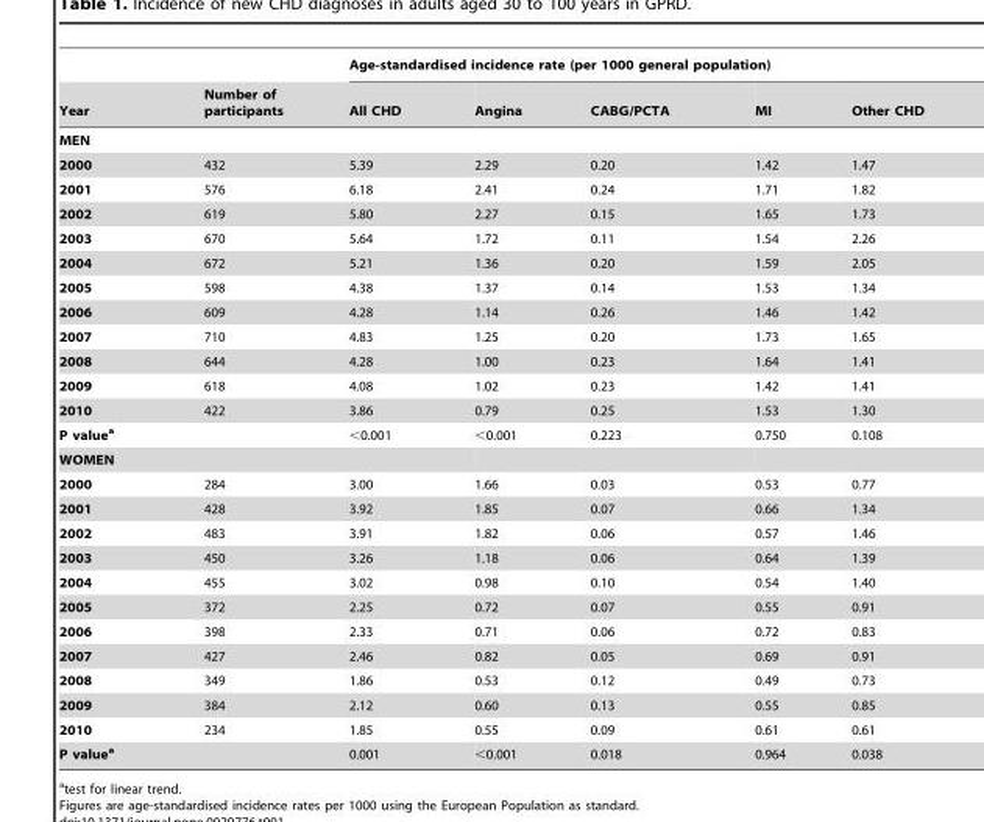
<table><thead><tr><td rowspan="2">Year</td><td rowspan="2">Number of participants</td><td colspan="5">Age-standardised incidence rate (per 1000 general population)</td></tr><tr><td>All CHD</td><td>Angina</td><td>CABG/PCTA</td><td>MI</td><td>Other CHD</td></tr></thead><tbody><tr><td colspan="7">MEN</td></tr><tr><td>2000</td><td>432</td><td>5.39</td><td>2.29</td><td>0.20</td><td>1.42</td><td>1.47</td></tr><tr><td>2001</td><td>576</td><td>6.18</td><td>2.41</td><td>0.24</td><td>1.71</td><td>1.82</td></tr><tr><td>2002</td><td>619</td><td>5.80</td><td>2.27</td><td>0.15</td><td>1.65</td><td>1.73</td></tr><tr><td>2003</td><td>670</td><td>5.64</td><td>1.72</td><td>0.11</td><td>1.54</td><td>2.26</td></tr><tr><td>2004</td><td>672</td><td>5.21</td><td>1.36</td><td>0.20</td><td>1.59</td><td>2.05</td></tr><tr><td>2005</td><td>598</td><td>4.38</td><td>1.37</td><td>0.14</td><td>1.53</td><td>1.34</td></tr><tr><td>2006</td><td>609</td><td>4.28</td><td>1.14</td><td>0.26</td><td>1.46</td><td>1.42</td></tr><tr><td>2007</td><td>710</td><td>4.83</td><td>1.25</td><td>0.20</td><td>1.73</td><td>1.65</td></tr><tr><td>2008</td><td>644</td><td>4.28</td><td>1.00</td><td>0.23</td><td>1.64</td><td>1.41</td></tr><tr><td>2009</td><td>618</td><td>4.08</td><td>1.02</td><td>0.23</td><td>1.42</td><td>1.41</td></tr><tr><td>2010</td><td>422</td><td>3.86</td><td>0.79</td><td>0.25</td><td>1.53</td><td>1.30</td></tr><tr><td>P valuea</td><td></td><td>&lt;0.001</td><td>&lt;0.001</td><td>0.223</td><td>0.750</td><td>0.108</td></tr><tr><td colspan="7">WOMEN</td></tr><tr><td>2000</td><td>284</td><td>3.00</td><td>1.66</td><td>0.03</td><td>0.53</td><td>0.77</td></tr><tr><td>2001</td><td>428</td><td>3.92</td><td>1.85</td><td>0.07</td><td>0.66</td><td>1.34</td></tr><tr><td>2002</td><td>483</td><td>3.91</td><td>1.82</td><td>0.06</td><td>0.57</td><td>1.46</td></tr><tr><td>2003</td><td>450</td><td>3.26</td><td>1.18</td><td>0.06</td><td>0.64</td><td>1.39</td></tr><tr><td>2004</td><td>455</td><td>3.02</td><td>0.98</td><td>0.10</td><td>0.54</td><td>1.40</td></tr><tr><td>2005</td><td>372</td><td>2.25</td><td>0.72</td><td>0.07</td><td>0.55</td><td>0.91</td></tr><tr><td>2006</td><td>398</td><td>2.33</td><td>0.71</td><td>0.06</td><td>0.72</td><td>0.83</td></tr><tr><td>2007</td><td>427</td><td>2.46</td><td>0.82</td><td>0.05</td><td>0.69</td><td>0.91</td></tr><tr><td>2008</td><td>349</td><td>1.86</td><td>0.53</td><td>0.12</td><td>0.49</td><td>0.73</td></tr><tr><td>2009</td><td>384</td><td>2.12</td><td>0.60</td><td>0.13</td><td>0.55</td><td>0.85</td></tr><tr><td>2010</td><td>234</td><td>1.85</td><td>0.55</td><td>0.09</td><td>0.61</td><td>0.61</td></tr><tr><td>P valuea</td><td></td><td>0.001</td><td>&lt;0.001</td><td>0.018</td><td>0.964</td><td>0.038</td></tr></tbody></table>